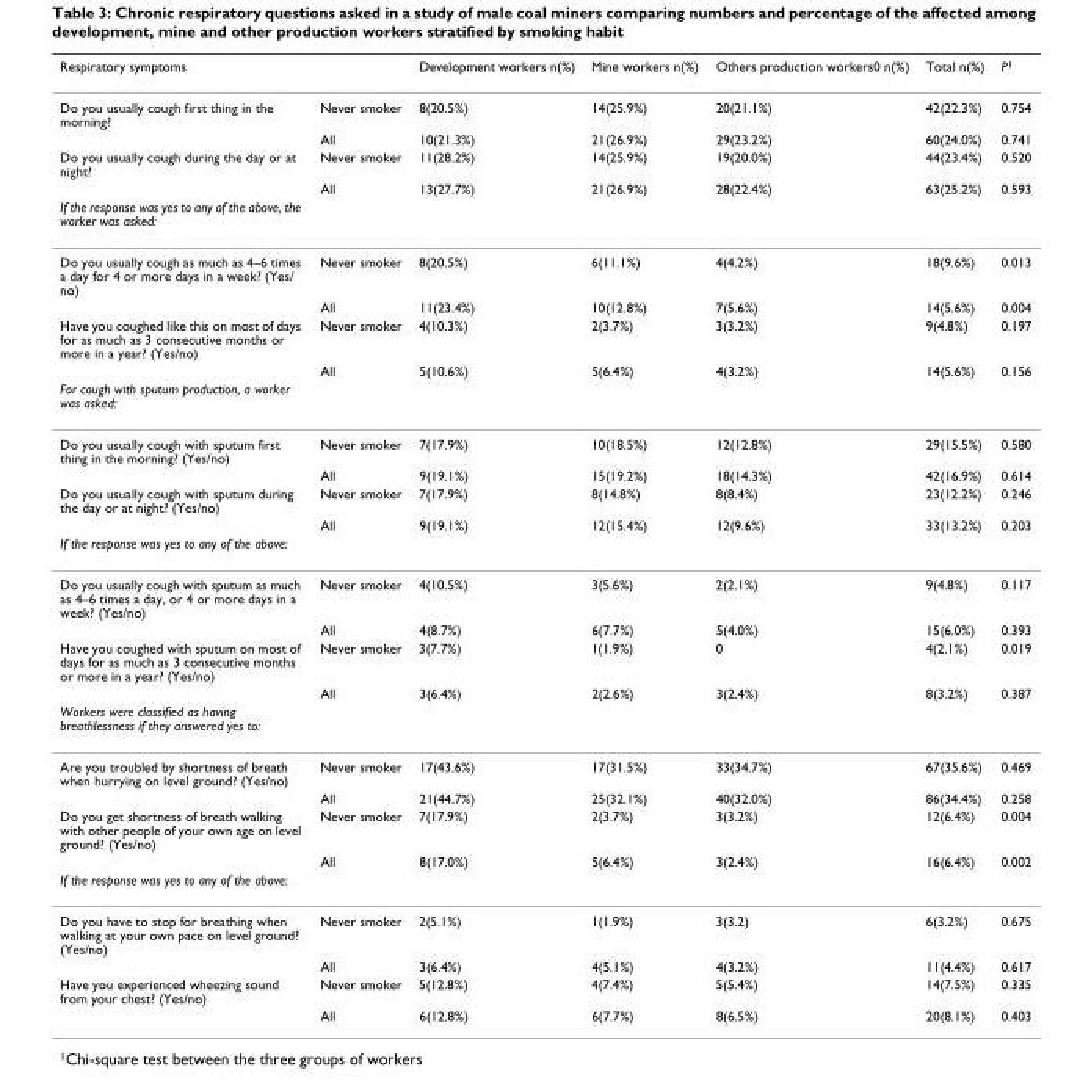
<table><thead><tr><td>Respiratory symptoms</td><td></td><td>Development workers n(%)</td><td>Mine workers n(%)</td><td>Others production workers0 n(%)</td><td>Total n(%)</td><td>P<sup>1</sup></td></tr></thead><tbody><tr><td rowspan="2">Do you usually cough first thing in the morning?</td><td>Never smoker</td><td>8(20.5%)</td><td>14(25.9%)</td><td>20(21.1%)</td><td>42(22.3%)</td><td>0.754</td></tr><tr><td>All</td><td>10(21.3%)</td><td>21(26.9%)</td><td>29(23.2%)</td><td>60(24.0%)</td><td>0.741</td></tr><tr><td rowspan="2">Do you usually cough during the day or at night?</td><td>Never smoker</td><td>11(28.2%)</td><td>14(25.9%)</td><td>19(20.0%)</td><td>44(23.4%)</td><td>0.520</td></tr><tr><td>All</td><td>13(27.7%)</td><td>21(26.9%)</td><td>28(22.4%)</td><td>63(25.2%)</td><td>0.593</td></tr><tr><td colspan="7">If the response was yes to any of the above, the worker was asked:</td></tr><tr><td rowspan="2">Do you usually cough as much as 4–6 times a day for 4 or more days in a week? (Yes/ no)</td><td>Never smoker</td><td>8(20.5%)</td><td>6(11.1%)</td><td>4(4.2%)</td><td>18(9.6%)</td><td>0.013</td></tr><tr><td>All</td><td>11(23.4%)</td><td>10(12.8%)</td><td>7(5.6%)</td><td>14(5.6%)</td><td>0.004</td></tr><tr><td rowspan="2">Have you coughed like this on most of days for as much as 3 consecutive months or more in a year? (Yes/no)</td><td>Never smoker</td><td>4(10.3%)</td><td>2(3.7%)</td><td>3(3.2%)</td><td>9(4.8%)</td><td>0.197</td></tr><tr><td>All</td><td>5(10.6%)</td><td>5(6.4%)</td><td>4(3.2%)</td><td>14(5.6%)</td><td>0.156</td></tr><tr><td colspan="7">For cough with sputum production, a worker was asked:</td></tr><tr><td rowspan="2">Do you usually cough with sputum first thing in the morning? (Yes/no)</td><td>Never smoker</td><td>7(17.9%)</td><td>10(18.5%)</td><td>12(12.8%)</td><td>29(15.5%)</td><td>0.580</td></tr><tr><td>All</td><td>9(19.1%)</td><td>15(19.2%)</td><td>18(14.3%)</td><td>42(16.9%)</td><td>0.614</td></tr><tr><td rowspan="2">Do you usually cough with sputum during the day or at night? (Yes/no)</td><td>Never smoker</td><td>7(17.9%)</td><td>8(14.8%)</td><td>8(8.4%)</td><td>23(12.2%)</td><td>0.246</td></tr><tr><td>All</td><td>9(19.1%)</td><td>12(15.4%)</td><td>12(9.6%)</td><td>33(13.2%)</td><td>0.203</td></tr><tr><td colspan="7">If the response was yes to any of the above:</td></tr><tr><td rowspan="2">Do you usually cough with sputum as much as 4–6 times a day, or 4 or more days in a week? (Yes/no)</td><td>Never smoker</td><td>4(10.5%)</td><td>3(5.6%)</td><td>2(2.1%)</td><td>9(4.8%)</td><td>0.117</td></tr><tr><td>All</td><td>4(8.7%)</td><td>6(7.7%)</td><td>5(4.0%)</td><td>15(6.0%)</td><td>0.393</td></tr><tr><td rowspan="2">Have you coughed with sputum on most of days for as much as 3 consecutive months or more in a year? (Yes/no)</td><td>Never smoker</td><td>3(7.7%)</td><td>1(1.9%)</td><td>0</td><td>4(2.1%)</td><td>0.019</td></tr><tr><td>All</td><td>3(6.4%)</td><td>2(2.6%)</td><td>3(2.4%)</td><td>8(3.2%)</td><td>0.387</td></tr><tr><td colspan="7">Workers were classified as having breathlessness if they answered yes to:</td></tr><tr><td rowspan="2">Are you troubled by shortness of breath when hurrying on level ground? (Yes/no)</td><td>Never smoker</td><td>17(43.6%)</td><td>17(31.5%)</td><td>33(34.7%)</td><td>67(35.6%)</td><td>0.469</td></tr><tr><td>All</td><td>21(44.7%)</td><td>25(32.1%)</td><td>40(32.0%)</td><td>86(34.4%)</td><td>0.258</td></tr><tr><td rowspan="2">Do you get shortness of breath walking with other people of your own age on level ground? (Yes/no)</td><td>Never smoker</td><td>7(17.9%)</td><td>2(3.7%)</td><td>3(3.2%)</td><td>12(6.4%)</td><td>0.004</td></tr><tr><td>All</td><td>8(17.0%)</td><td>5(6.4%)</td><td>3(2.4%)</td><td>16(6.4%)</td><td>0.002</td></tr><tr><td colspan="7">If the response was yes to any of the above:</td></tr><tr><td rowspan="2">Do you have to stop for breathing when walking at your own pace on level ground? (Yes/no)</td><td>Never smoker</td><td>2(5.1%)</td><td>1(1.9%)</td><td>3(3.2)</td><td>6(3.2%)</td><td>0.675</td></tr><tr><td>All</td><td>3(6.4%)</td><td>4(5.1%)</td><td>4(3.2%)</td><td>11(4.4%)</td><td>0.617</td></tr><tr><td rowspan="2">Have you experienced wheezing sound from your chest? (Yes/no)</td><td>Never smoker</td><td>5(12.8%)</td><td>4(7.4%)</td><td>5(5.4%)</td><td>14(7.5%)</td><td>0.335</td></tr><tr><td>All</td><td>6(12.8%)</td><td>6(7.7%)</td><td>8(6.5%)</td><td>20(8.1%)</td><td>0.403</td></tr></tbody></table>